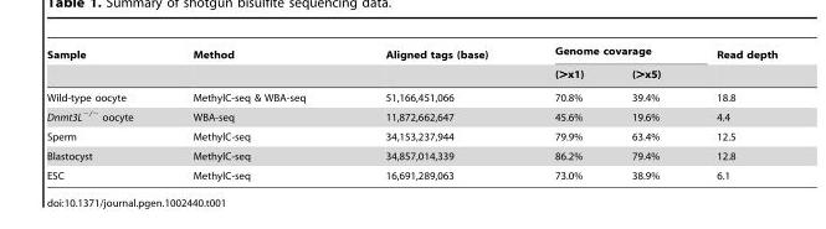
<table><thead><tr><td rowspan="2">Sample</td><td rowspan="2">Method</td><td rowspan="2">Aligned tags (base)</td><td colspan="2">Genome covarage</td><td rowspan="2">Read depth</td></tr><tr><td>(&gt;x1)</td><td>(&gt;x5)</td></tr></thead><tbody><tr><td>Wild-type oocyte</td><td>MethylC-seq &amp; WBA-seq</td><td>51,166,451,066</td><td>70.8%</td><td>39.4%</td><td>18.8</td></tr><tr><td>Dnmt3L<sup>−/−</sup> oocyte</td><td>WBA-seq</td><td>11,872,662,647</td><td>45.6%</td><td>19.6%</td><td>4.4</td></tr><tr><td>Sperm</td><td>MethylC-seq</td><td>34,153,237,944</td><td>79.9%</td><td>63.4%</td><td>12.5</td></tr><tr><td>Blastocyst</td><td>MethylC-seq</td><td>34,857,014,339</td><td>86.2%</td><td>79.4%</td><td>12.8</td></tr><tr><td>ESC</td><td>MethylC-seq</td><td>16,691,289,063</td><td>73.0%</td><td>38.9%</td><td>6.1</td></tr></tbody></table>